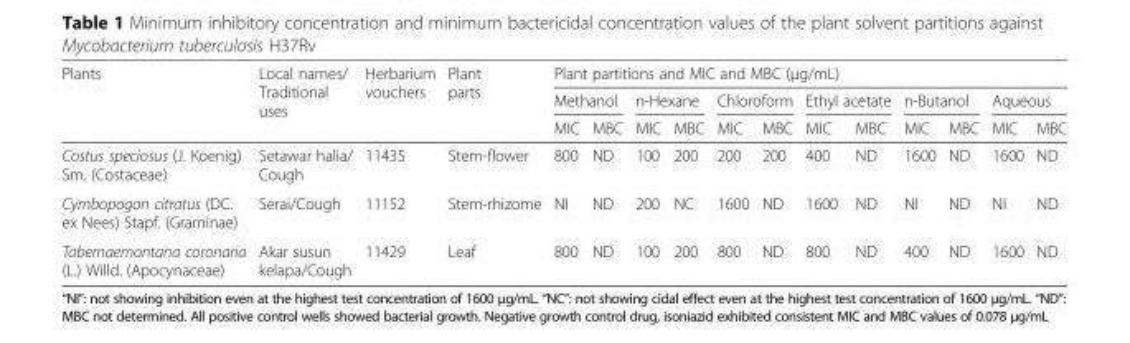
<table><thead><tr><td rowspan="3">Plants</td><td rowspan="3">Local names/ Traditional uses</td><td rowspan="3">Herbarium vouchers</td><td rowspan="3">Plant parts</td><td colspan="12">Plant partitions and MIC and MBC (μg/mL)</td></tr><tr><td colspan="2">Methanol</td><td colspan="2">n-Hexane</td><td colspan="2">Chloroform</td><td colspan="2">Ethyl acetate</td><td colspan="2">n-Butanol</td><td colspan="2">Aqueous</td></tr><tr><td>MIC</td><td>MBC</td><td>MIC</td><td>MBC</td><td>MIC</td><td>MBC</td><td>MIC</td><td>MBC</td><td>MIC</td><td>MBC</td><td>MIC</td><td>MBC</td></tr></thead><tbody><tr><td>Costus speciosus (J. Koenig) Sm. (Costaceae)</td><td>Setawar halia/ Cough</td><td>11435</td><td>Stem-flower</td><td>800</td><td>ND</td><td>100</td><td>200</td><td>200</td><td>200</td><td>400</td><td>ND</td><td>1600</td><td>ND</td><td>1600</td><td>ND</td></tr><tr><td>Cymbopogon citratus (DC. ex Nees) Stapf. (Graminae)</td><td>Serai/Cough</td><td>11152</td><td>Stem-rhizome</td><td>NI</td><td>ND</td><td>200</td><td>NC</td><td>1600</td><td>ND</td><td>1600</td><td>ND</td><td>NI</td><td>ND</td><td>NI</td><td>ND</td></tr><tr><td>Tabernaemontana coronaria (L.) Willd. (Apocynaceae)</td><td>Akar susun kelapa/Cough</td><td>11429</td><td>Leaf</td><td>800</td><td>ND</td><td>100</td><td>200</td><td>800</td><td>ND</td><td>800</td><td>ND</td><td>400</td><td>ND</td><td>1600</td><td>ND</td></tr></tbody></table>